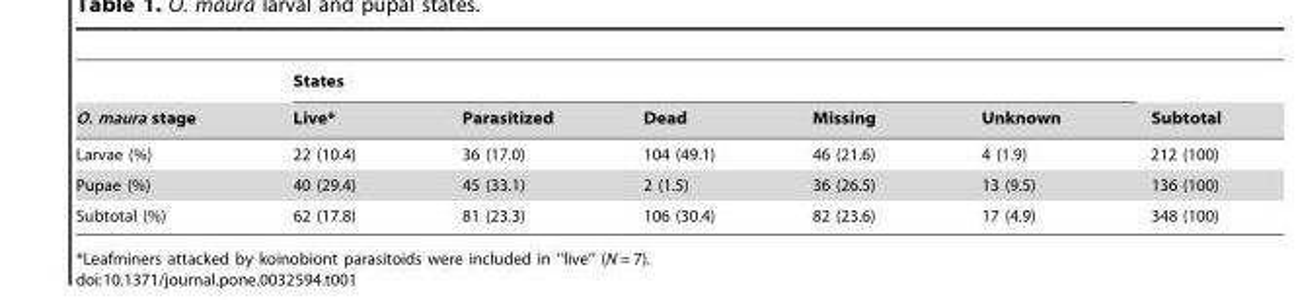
<table><thead><tr><td rowspan="2">O. maura stage</td><td colspan="5">States</td><td rowspan="2">Subtotal</td></tr><tr><td>Live*</td><td>Parasitized</td><td>Dead</td><td>Missing</td><td>Unknown</td></tr></thead><tbody><tr><td>Larvae (%)</td><td>22 (10.4)</td><td>36 (17.0)</td><td>104 (49.1)</td><td>46 (21.6)</td><td>4 (1.9)</td><td>212 (100)</td></tr><tr><td>Pupae (%)</td><td>40 (29.4)</td><td>45 (33.1)</td><td>2 (1.5)</td><td>36 (26.5)</td><td>13 (9.5)</td><td>136 (100)</td></tr><tr><td>Subtotal (%)</td><td>62 (17.8)</td><td>81 (23.3)</td><td>106 (30.4)</td><td>82 (23.6)</td><td>17 (4.9)</td><td>348 (100)</td></tr></tbody></table>